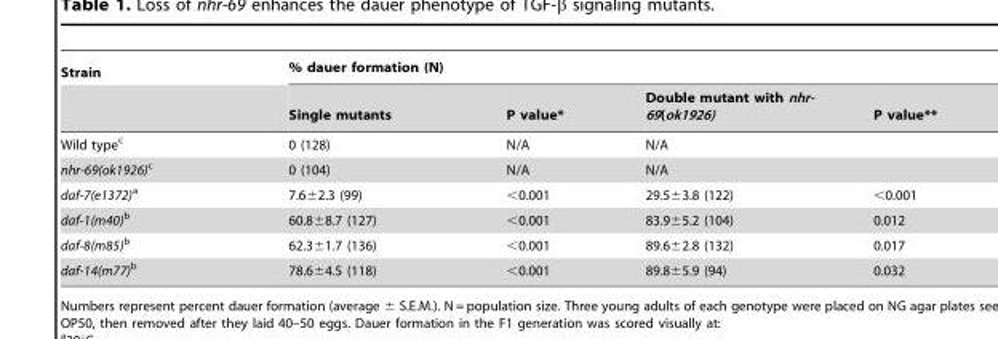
<table><thead><tr><td rowspan="2">Strain</td><td colspan="4">% dauer formation (N)</td></tr><tr><td>Single mutants</td><td>P value*</td><td>Double mutant with nhr- 69(ok1926)</td><td>P value**</td></tr></thead><tbody><tr><td>Wild type<sup>c</sup></td><td>0 (128)</td><td>N/A</td><td>N/A</td><td></td></tr><tr><td>nhr-69(ok1926)c</td><td>0 (104)</td><td>N/A</td><td>N/A</td><td></td></tr><tr><td>daf-7(e1372)a</td><td>7.6±2.3 (99)</td><td>&lt;0.001</td><td>29.5±3.8 (122)</td><td>&lt;0.001</td></tr><tr><td>daf-1(m40)b</td><td>60.8±8.7 (127)</td><td>&lt;0.001</td><td>83.9±5.2 (104)</td><td>0.012</td></tr><tr><td>daf-8(m85)b</td><td>62.3±1.7 (136)</td><td>&lt;0.001</td><td>89.6±2.8 (132)</td><td>0.017</td></tr><tr><td>daf-14(m77)b</td><td>78.6±4.5 (118)</td><td>&lt;0.001</td><td>89.8±5.9 (94)</td><td>0.032</td></tr></tbody></table>